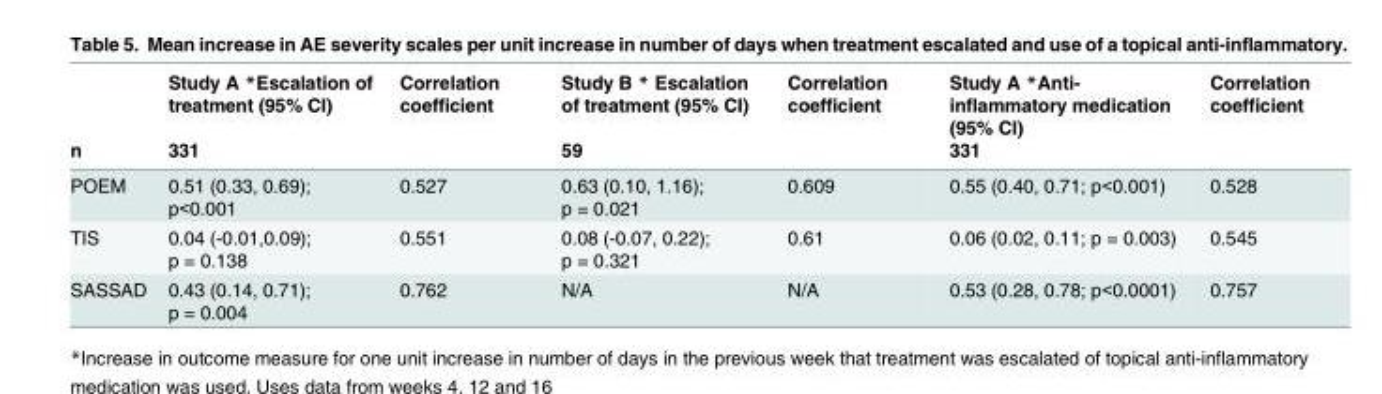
<table><thead><tr><td rowspan="2">n</td><td rowspan="2">Study A *Escalation of treatment (95% CI) 331</td><td rowspan="2">Correlation coefficient</td><td rowspan="2">Study B * Escalation of treatment (95% CI) 59</td><td rowspan="2">Correlation coefficient</td><td rowspan="2">Study A *Anti- inflammatory medication (95% CI) 331</td><td rowspan="2">Correlation coefficient</td></tr><tr></tr></thead><tbody><tr><td>POEM</td><td>0.51 (0.33, 0.69); p&lt;0.001</td><td>0.527</td><td>0.63 (0.10, 1.16); p = 0.021</td><td>0.609</td><td>0.55 (0.40, 0.71; p&lt;0.001)</td><td>0.528</td></tr><tr><td>TIS</td><td>0.04 (-0.01,0.09); p = 0.138</td><td>0.551</td><td>0.08 (-0.07, 0.22); p = 0.321</td><td>0.61</td><td>0.06 (0.02, 0.11; p = 0.003)</td><td>0.545</td></tr><tr><td>SASSAD</td><td>0.43 (0.14, 0.71); p = 0.004</td><td>0.762</td><td>N/A</td><td>N/A</td><td>0.53 (0.28, 0.78; p&lt;0.0001)</td><td>0.757</td></tr></tbody></table>